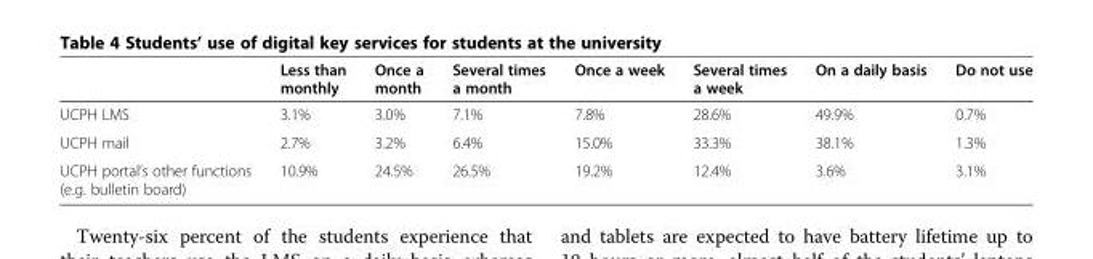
<table><thead><tr><td></td><td>Less than monthly</td><td>Once a month</td><td>Several times a month</td><td>Once a week</td><td>Several times a week</td><td>On a daily basis</td><td>Do not use</td></tr></thead><tbody><tr><td>UCPH LMS</td><td>3.1%</td><td>3.0%</td><td>7.1%</td><td>7.8%</td><td>28.6%</td><td>49.9%</td><td>0.7%</td></tr><tr><td>UCPH mail</td><td>2.7%</td><td>3.2%</td><td>6.4%</td><td>15.0%</td><td>33.3%</td><td>38.1%</td><td>1.3%</td></tr><tr><td>UCPH portal’s other functions (e.g. bulletin board)</td><td>10.9%</td><td>24.5%</td><td>26.5%</td><td>19.2%</td><td>12.4%</td><td>3.6%</td><td>3.1%</td></tr></tbody></table>